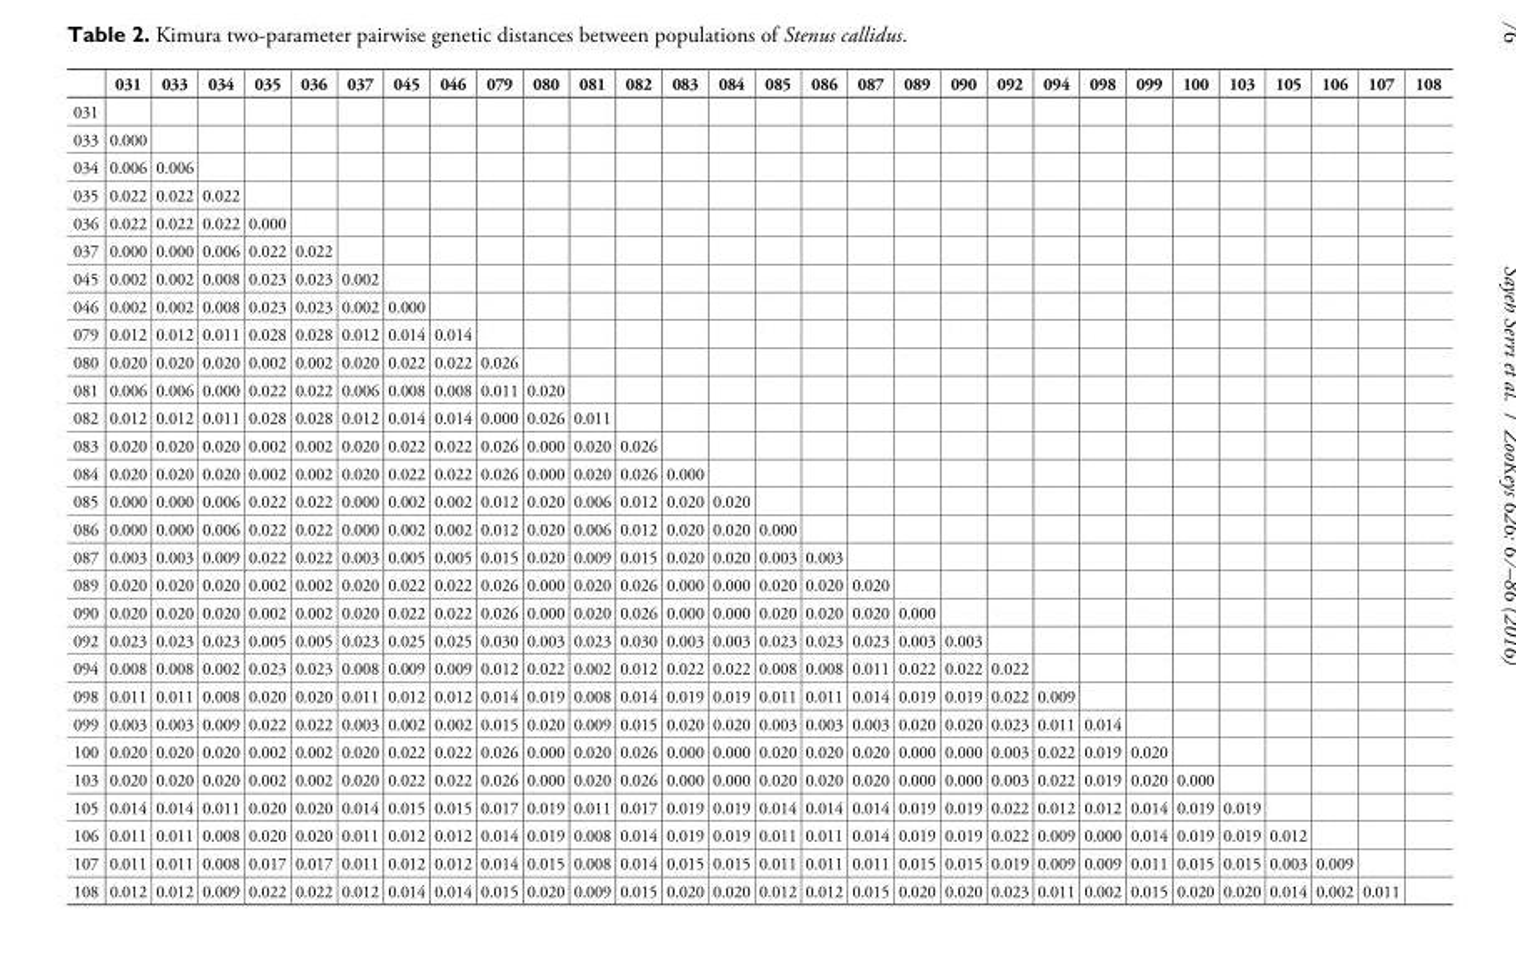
<table><thead><tr><td></td><td>031</td><td>033</td><td>034</td><td>035</td><td>036</td><td>037</td><td>045</td><td>046</td><td>079</td><td>080</td><td>081</td><td>082</td><td>083</td><td>084</td><td>085</td><td>086</td><td>087</td><td>089</td><td>090</td><td>092</td><td>094</td><td>098</td><td>099</td><td>100</td><td>103</td><td>105</td><td>106</td><td>107</td><td>108</td></tr></thead><tbody><tr><td colspan="30">031</td></tr><tr><td>033</td><td>0.000</td><td></td><td></td><td></td><td></td><td></td><td></td><td></td><td></td><td></td><td></td><td></td><td></td><td></td><td></td><td></td><td></td><td></td><td></td><td></td><td></td><td></td><td></td><td></td><td></td><td></td><td></td><td></td><td></td></tr><tr><td>034</td><td>0.006</td><td>0.006</td><td></td><td></td><td></td><td></td><td></td><td></td><td></td><td></td><td></td><td></td><td></td><td></td><td></td><td></td><td></td><td></td><td></td><td></td><td></td><td></td><td></td><td></td><td></td><td></td><td></td><td></td><td></td></tr><tr><td>035</td><td>0.022</td><td>0.022</td><td>0.022</td><td></td><td></td><td></td><td></td><td></td><td></td><td></td><td></td><td></td><td></td><td></td><td></td><td></td><td></td><td></td><td></td><td></td><td></td><td></td><td></td><td></td><td></td><td></td><td></td><td></td><td></td></tr><tr><td>036</td><td>0.022</td><td>0.022</td><td>0.022</td><td>0.000</td><td></td><td></td><td></td><td></td><td></td><td></td><td></td><td></td><td></td><td></td><td></td><td></td><td></td><td></td><td></td><td></td><td></td><td></td><td></td><td></td><td></td><td></td><td></td><td></td><td></td></tr><tr><td>037</td><td>0.000</td><td>0.000</td><td>0.006</td><td>0.022</td><td>0.022</td><td></td><td></td><td></td><td></td><td></td><td></td><td></td><td></td><td></td><td></td><td></td><td></td><td></td><td></td><td></td><td></td><td></td><td></td><td></td><td></td><td></td><td></td><td></td><td></td></tr><tr><td>045</td><td>0.002</td><td>0.002</td><td>0.008</td><td>0.023</td><td>0.023</td><td>0.002</td><td></td><td></td><td></td><td></td><td></td><td></td><td></td><td></td><td></td><td></td><td></td><td></td><td></td><td></td><td></td><td></td><td></td><td></td><td></td><td></td><td></td><td></td><td></td></tr><tr><td>046</td><td>0.002</td><td>0.002</td><td>0.008</td><td>0.023</td><td>0.023</td><td>0.002</td><td>0.000</td><td></td><td></td><td></td><td></td><td></td><td></td><td></td><td></td><td></td><td></td><td></td><td></td><td></td><td></td><td></td><td></td><td></td><td></td><td></td><td></td><td></td><td></td></tr><tr><td>079</td><td>0.012</td><td>0.012</td><td>0.011</td><td>0.028</td><td>0.028</td><td>0.012</td><td>0.014</td><td>0.014</td><td></td><td></td><td></td><td></td><td></td><td></td><td></td><td></td><td></td><td></td><td></td><td></td><td></td><td></td><td></td><td></td><td></td><td></td><td></td><td></td><td></td></tr><tr><td>080</td><td>0.020</td><td>0.020</td><td>0.020</td><td>0.002</td><td>0.002</td><td>0.020</td><td>0.022</td><td>0.022</td><td>0.026</td><td></td><td></td><td></td><td></td><td></td><td></td><td></td><td></td><td></td><td></td><td></td><td></td><td></td><td></td><td></td><td></td><td></td><td></td><td></td><td></td></tr><tr><td>081</td><td>0.006</td><td>0.006</td><td>0.000</td><td>0.022</td><td>0.022</td><td>0.006</td><td>0.008</td><td>0.008</td><td>0.011</td><td>0.020</td><td></td><td></td><td></td><td></td><td></td><td></td><td></td><td></td><td></td><td></td><td></td><td></td><td></td><td></td><td></td><td></td><td></td><td></td><td></td></tr><tr><td>082</td><td>0.012</td><td>0.012</td><td>0.011</td><td>0.028</td><td>0.028</td><td>0.012</td><td>0.014</td><td>0.014</td><td>0.000</td><td>0.026</td><td>0.011</td><td></td><td></td><td></td><td></td><td></td><td></td><td></td><td></td><td></td><td></td><td></td><td></td><td></td><td></td><td></td><td></td><td></td><td></td></tr><tr><td>083</td><td>0.020</td><td>0.020</td><td>0.020</td><td>0.002</td><td>0.002</td><td>0.020</td><td>0.022</td><td>0.022</td><td>0.026</td><td>0.000</td><td>0.020</td><td>0.026</td><td></td><td></td><td></td><td></td><td></td><td></td><td></td><td></td><td></td><td></td><td></td><td></td><td></td><td></td><td></td><td></td><td></td></tr><tr><td>084</td><td>0.020</td><td>0.020</td><td>0.020</td><td>0.002</td><td>0.002</td><td>0.020</td><td>0.022</td><td>0.022</td><td>0.026</td><td>0.000</td><td>0.020</td><td>0.026</td><td>0.000</td><td></td><td></td><td></td><td></td><td></td><td></td><td></td><td></td><td></td><td></td><td></td><td></td><td></td><td></td><td></td><td></td></tr><tr><td>085</td><td>0.000</td><td>0.000</td><td>0.006</td><td>0.022</td><td>0.022</td><td>0.000</td><td>0.002</td><td>0.002</td><td>0.012</td><td>0.020</td><td>0.006</td><td>0.012</td><td>0.020</td><td>0.020</td><td></td><td></td><td></td><td></td><td></td><td></td><td></td><td></td><td></td><td></td><td></td><td></td><td></td><td></td><td></td></tr><tr><td>086</td><td>0.000</td><td>0.000</td><td>0.006</td><td>0.022</td><td>0.022</td><td>0.000</td><td>0.002</td><td>0.002</td><td>0.012</td><td>0.020</td><td>0.006</td><td>0.012</td><td>0.020</td><td>0.020</td><td>0.000</td><td></td><td></td><td></td><td></td><td></td><td></td><td></td><td></td><td></td><td></td><td></td><td></td><td></td><td></td></tr><tr><td>087</td><td>0.003</td><td>0.003</td><td>0.009</td><td>0.022</td><td>0.022</td><td>0.003</td><td>0.005</td><td>0.005</td><td>0.015</td><td>0.020</td><td>0.009</td><td>0.015</td><td>0.020</td><td>0.020</td><td>0.003</td><td>0.003</td><td></td><td></td><td></td><td></td><td></td><td></td><td></td><td></td><td></td><td></td><td></td><td></td><td></td></tr><tr><td>089</td><td>0.020</td><td>0.020</td><td>0.020</td><td>0.002</td><td>0.002</td><td>0.020</td><td>0.022</td><td>0.022</td><td>0.026</td><td>0.000</td><td>0.020</td><td>0.026</td><td>0.000</td><td>0.000</td><td>0.020</td><td>0.020</td><td>0.020</td><td></td><td></td><td></td><td></td><td></td><td></td><td></td><td></td><td></td><td></td><td></td><td></td></tr><tr><td>090</td><td>0.020</td><td>0.020</td><td>0.020</td><td>0.002</td><td>0.002</td><td>0.020</td><td>0.022</td><td>0.022</td><td>0.026</td><td>0.000</td><td>0.020</td><td>0.026</td><td>0.000</td><td>0.000</td><td>0.020</td><td>0.020</td><td>0.020</td><td>0.000</td><td></td><td></td><td></td><td></td><td></td><td></td><td></td><td></td><td></td><td></td><td></td></tr><tr><td>092</td><td>0.023</td><td>0.023</td><td>0.023</td><td>0.005</td><td>0.005</td><td>0.023</td><td>0.025</td><td>0.025</td><td>0.030</td><td>0.003</td><td>0.023</td><td>0.030</td><td>0.003</td><td>0.003</td><td>0.023</td><td>0.023</td><td>0.023</td><td>0.003</td><td>0.003</td><td></td><td></td><td></td><td></td><td></td><td></td><td></td><td></td><td></td><td></td></tr><tr><td>094</td><td>0.008</td><td>0.008</td><td>0.002</td><td>0.023</td><td>0.023</td><td>0.008</td><td>0.009</td><td>0.009</td><td>0.012</td><td>0.022</td><td>0.002</td><td>0.012</td><td>0.022</td><td>0.022</td><td>0.008</td><td>0.008</td><td>0.011</td><td>0.022</td><td>0.022</td><td>0.022</td><td></td><td></td><td></td><td></td><td></td><td></td><td></td><td></td><td></td></tr><tr><td>098</td><td>0.011</td><td>0.011</td><td>0.008</td><td>0.020</td><td>0.020</td><td>0.011</td><td>0.012</td><td>0.012</td><td>0.014</td><td>0.019</td><td>0.008</td><td>0.014</td><td>0.019</td><td>0.019</td><td>0.011</td><td>0.011</td><td>0.014</td><td>0.019</td><td>0.019</td><td>0.022</td><td>0.009</td><td></td><td></td><td></td><td></td><td></td><td></td><td></td><td></td></tr><tr><td>099</td><td>0.003</td><td>0.003</td><td>0.009</td><td>0.022</td><td>0.022</td><td>0.003</td><td>0.002</td><td>0.002</td><td>0.015</td><td>0.020</td><td>0.009</td><td>0.015</td><td>0.020</td><td>0.020</td><td>0.003</td><td>0.003</td><td>0.003</td><td>0.020</td><td>0.020</td><td>0.023</td><td>0.011</td><td>0.014</td><td></td><td></td><td></td><td></td><td></td><td></td><td></td></tr><tr><td>100</td><td>0.020</td><td>0.020</td><td>0.020</td><td>0.002</td><td>0.002</td><td>0.020</td><td>0.022</td><td>0.022</td><td>0.026</td><td>0.000</td><td>0.020</td><td>0.026</td><td>0.000</td><td>0.000</td><td>0.020</td><td>0.020</td><td>0.020</td><td>0.000</td><td>0.000</td><td>0.003</td><td>0.022</td><td>0.019</td><td>0.020</td><td></td><td></td><td></td><td></td><td></td><td></td></tr><tr><td>103</td><td>0.020</td><td>0.020</td><td>0.020</td><td>0.002</td><td>0.002</td><td>0.020</td><td>0.022</td><td>0.022</td><td>0.026</td><td>0.000</td><td>0.020</td><td>0.026</td><td>0.000</td><td>0.000</td><td>0.020</td><td>0.020</td><td>0.020</td><td>0.000</td><td>0.000</td><td>0.003</td><td>0.022</td><td>0.019</td><td>0.020</td><td>0.000</td><td></td><td></td><td></td><td></td><td></td></tr><tr><td>105</td><td>0.014</td><td>0.014</td><td>0.011</td><td>0.020</td><td>0.020</td><td>0.014</td><td>0.015</td><td>0.015</td><td>0.017</td><td>0.019</td><td>0.011</td><td>0.017</td><td>0.019</td><td>0.019</td><td>0.014</td><td>0.014</td><td>0.014</td><td>0.019</td><td>0.019</td><td>0.022</td><td>0.012</td><td>0.012</td><td>0.014</td><td>0.019</td><td>0.019</td><td></td><td></td><td></td><td></td></tr><tr><td>106</td><td>0.011</td><td>0.011</td><td>0.008</td><td>0.020</td><td>0.020</td><td>0.011</td><td>0.012</td><td>0.012</td><td>0.014</td><td>0.019</td><td>0.008</td><td>0.014</td><td>0.019</td><td>0.019</td><td>0.011</td><td>0.011</td><td>0.014</td><td>0.019</td><td>0.019</td><td>0.022</td><td>0.009</td><td>0.000</td><td>0.014</td><td>0.019</td><td>0.019</td><td>0.012</td><td></td><td></td><td></td></tr><tr><td>107</td><td>0.011</td><td>0.011</td><td>0.008</td><td>0.017</td><td>0.017</td><td>0.011</td><td>0.012</td><td>0.012</td><td>0.014</td><td>0.015</td><td>0.008</td><td>0.014</td><td>0.015</td><td>0.015</td><td>0.011</td><td>0.011</td><td>0.011</td><td>0.015</td><td>0.015</td><td>0.019</td><td>0.009</td><td>0.009</td><td>0.011</td><td>0.015</td><td>0.015</td><td>0.003</td><td>0.009</td><td></td><td></td></tr><tr><td>108</td><td>0.012</td><td>0.012</td><td>0.009</td><td>0.022</td><td>0.022</td><td>0.012</td><td>0.014</td><td>0.014</td><td>0.015</td><td>0.020</td><td>0.009</td><td>0.015</td><td>0.020</td><td>0.020</td><td>0.012</td><td>0.012</td><td>0.015</td><td>0.020</td><td>0.020</td><td>0.023</td><td>0.011</td><td>0.002</td><td>0.015</td><td>0.020</td><td>0.020</td><td>0.014</td><td>0.002</td><td>0.011</td><td></td></tr></tbody></table>